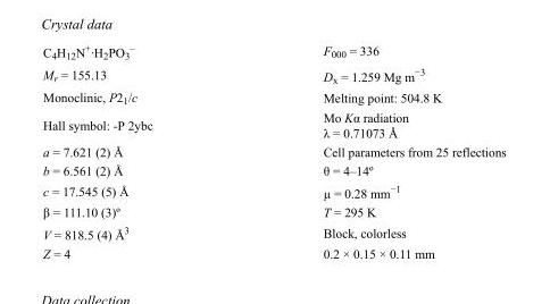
<table><tbody><tr><td>C<sub>4</sub>H<sub>12</sub>N<sup>+</sup>·H<sub>2</sub>PO<sub>3</sub> <sup>–</sup></td><td>F000 = 336</td></tr><tr><td>M<sub>r</sub> = 155.13</td><td>D<sub>x</sub> = 1.259 Mg m<sup>−3</sup></td></tr><tr><td>Monoclinic, P2<sub>1</sub>/c</td><td>Melting point: 504.8 K</td></tr><tr><td>Hall symbol: -P 2ybc</td><td>Mo Kα radiation λ = 0.71073 Å</td></tr><tr><td>a = 7.621 (2) Å</td><td>Cell parameters from 25 reflections</td></tr><tr><td>b = 6.561 (2) Å</td><td>θ = 4–14º</td></tr><tr><td>c = 17.545 (5) Å</td><td>µ = 0.28 mm<sup>−1</sup></td></tr><tr><td>β = 111.10 (3)º</td><td>T = 295 K</td></tr><tr><td>V = 818.5 (4) Å<sup>3</sup></td><td>Block, colorless</td></tr><tr><td>Z = 4</td><td>0.2 × 0.15 × 0.11 mm</td></tr></tbody></table>